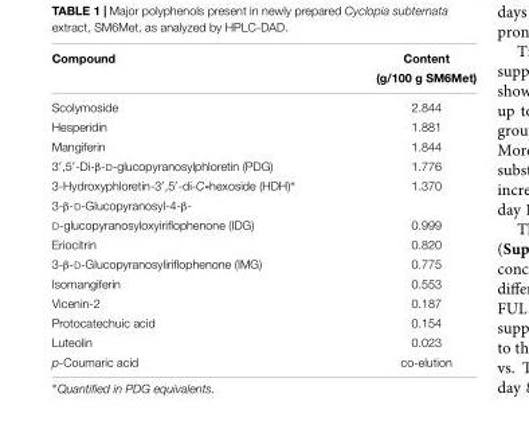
<table><thead><tr><td>Compound</td><td>Content (g/100 g SM6Met)</td></tr></thead><tbody><tr><td>Scolymoside</td><td>2.844</td></tr><tr><td>Hesperidin</td><td>1.881</td></tr><tr><td>Mangiferin</td><td>1.844</td></tr><tr><td>3′,5′-Di-β-D-glucopyranosylphloretin (PDG)</td><td>1.776</td></tr><tr><td>3-Hydroxyphloretin-3′,5′-di-C-hexoside (HDH)∗</td><td>1.370</td></tr><tr><td colspan="2">3-β-D-Glucopyranosyl-4-β-</td></tr><tr><td>D-glucopyranosyloxyiriflophenone (IDG)</td><td>0.999</td></tr><tr><td>Eriocitrin</td><td>0.820</td></tr><tr><td>3-β-D-Glucopyranosyliriflophenone (IMG)</td><td>0.775</td></tr><tr><td>Isomangiferin</td><td>0.553</td></tr><tr><td>Vicenin-2</td><td>0.187</td></tr><tr><td>Protocatechuic acid</td><td>0.154</td></tr><tr><td>Luteolin</td><td>0.023</td></tr><tr><td>p-Coumaric acid</td><td>co-elution</td></tr></tbody></table>